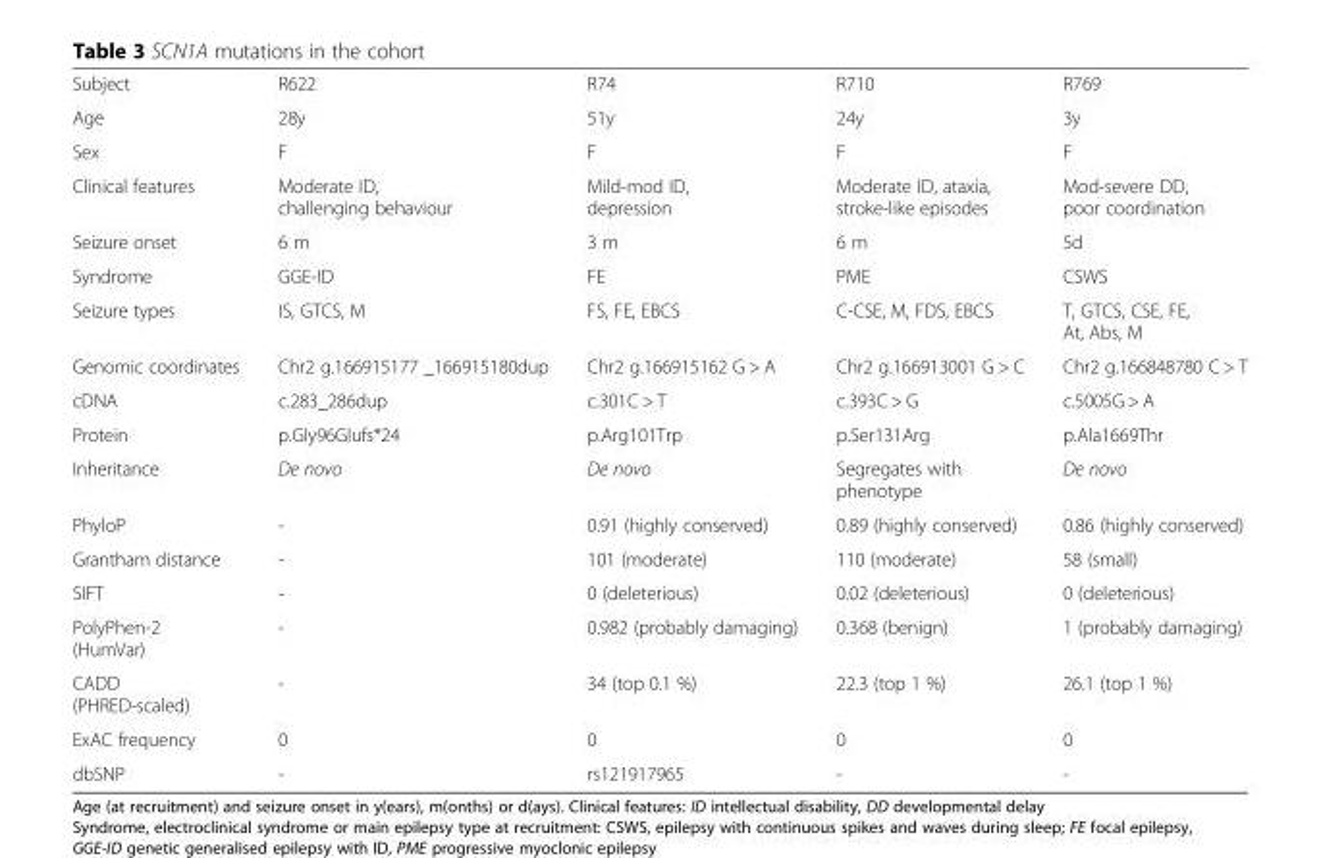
<table><tbody><tr><td>Subject</td><td>R622</td><td>R74</td><td>R710</td><td>R769</td></tr><tr><td>Age</td><td>28y</td><td>51y</td><td>24y</td><td>3y</td></tr><tr><td>Sex</td><td>F</td><td>F</td><td>F</td><td>F</td></tr><tr><td>Clinical features</td><td>Moderate ID, challenging behaviour</td><td>Mild-mod ID, depression</td><td>Moderate ID, ataxia, stroke-like episodes</td><td>Mod-severe DD, poor coordination</td></tr><tr><td>Seizure onset</td><td>6 m</td><td>3 m</td><td>6 m</td><td>5d</td></tr><tr><td>Syndrome</td><td>GGE-ID</td><td>FE</td><td>PME</td><td>CSWS</td></tr><tr><td>Seizure types</td><td>IS, GTCS, M</td><td>FS, FE, EBCS</td><td>C-CSE, M, FDS, EBCS</td><td>T, GTCS, CSE, FE, At, Abs, M</td></tr><tr><td>Genomic coordinates</td><td>Chr2 g.166915177 _166915180dup</td><td>Chr2 g.166915162 G &gt; A</td><td>Chr2 g.166913001 G &gt; C</td><td>Chr2 g.166848780 C &gt; T</td></tr><tr><td>cDNA</td><td>c.283_286dup</td><td>c.301C &gt; T</td><td>c.393C &gt; G</td><td>c.5005G &gt; A</td></tr><tr><td>Protein</td><td>p.Gly96Glufs*24</td><td>p.Arg101Trp</td><td>p.Ser131Arg</td><td>p.Ala1669Thr</td></tr><tr><td>Inheritance</td><td>De novo</td><td>De novo</td><td>Segregates with phenotype</td><td>De novo</td></tr><tr><td>PhyloP</td><td>-</td><td>0.91 (highly conserved)</td><td>0.89 (highly conserved)</td><td>0.86 (highly conserved)</td></tr><tr><td>Grantham distance</td><td>-</td><td>101 (moderate)</td><td>110 (moderate)</td><td>58 (small)</td></tr><tr><td>SIFT</td><td>-</td><td>0 (deleterious)</td><td>0.02 (deleterious)</td><td>0 (deleterious)</td></tr><tr><td>PolyPhen-2 (HumVar)</td><td>-</td><td>0.982 (probably damaging)</td><td>0.368 (benign)</td><td>1 (probably damaging)</td></tr><tr><td>CADD (PHRED-scaled)</td><td>-</td><td>34 (top 0.1 %)</td><td>22.3 (top 1 %)</td><td>26.1 (top 1 %)</td></tr><tr><td>ExAC frequency</td><td>0</td><td>0</td><td>0</td><td>0</td></tr><tr><td>dbSNP</td><td>-</td><td>rs121917965</td><td>-</td><td>-</td></tr></tbody></table>